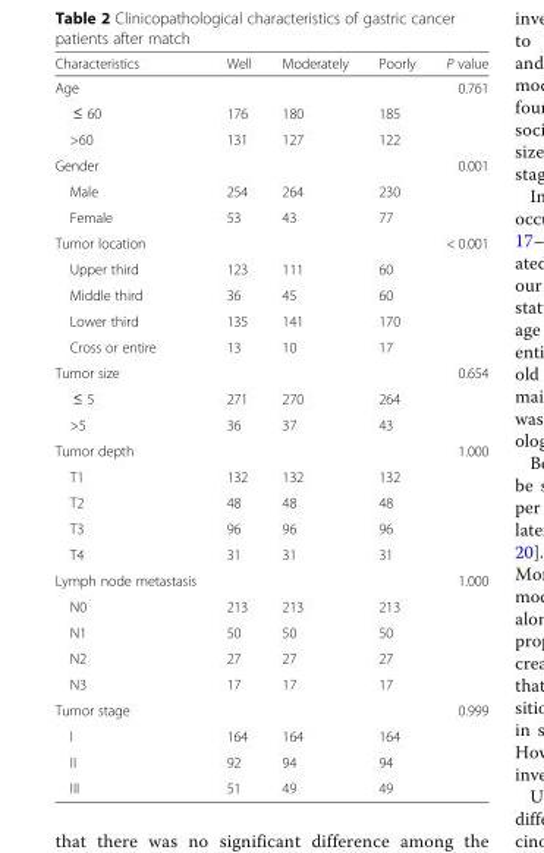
<table><thead><tr><td>Characteristics</td><td>Well</td><td>Moderately</td><td>Poorly</td><td>P value</td></tr></thead><tbody><tr><td>Age</td><td></td><td></td><td></td><td>0.761</td></tr><tr><td>≤ 60</td><td>176</td><td>180</td><td>185</td><td></td></tr><tr><td>&gt;60</td><td>131</td><td>127</td><td>122</td><td></td></tr><tr><td>Gender</td><td></td><td></td><td></td><td>0.001</td></tr><tr><td>Male</td><td>254</td><td>264</td><td>230</td><td></td></tr><tr><td>Female</td><td>53</td><td>43</td><td>77</td><td></td></tr><tr><td>Tumor location</td><td></td><td></td><td></td><td>&lt; 0.001</td></tr><tr><td>Upper third</td><td>123</td><td>111</td><td>60</td><td></td></tr><tr><td>Middle third</td><td>36</td><td>45</td><td>60</td><td></td></tr><tr><td>Lower third</td><td>135</td><td>141</td><td>170</td><td></td></tr><tr><td>Cross or entire</td><td>13</td><td>10</td><td>17</td><td></td></tr><tr><td>Tumor size</td><td></td><td></td><td></td><td>0.654</td></tr><tr><td>≤ 5</td><td>271</td><td>270</td><td>264</td><td></td></tr><tr><td>&gt;5</td><td>36</td><td>37</td><td>43</td><td></td></tr><tr><td>Tumor depth</td><td></td><td></td><td></td><td>1.000</td></tr><tr><td>T1</td><td>132</td><td>132</td><td>132</td><td></td></tr><tr><td>T2</td><td>48</td><td>48</td><td>48</td><td></td></tr><tr><td>T3</td><td>96</td><td>96</td><td>96</td><td></td></tr><tr><td>T4</td><td>31</td><td>31</td><td>31</td><td></td></tr><tr><td>Lymph node metastasis</td><td></td><td></td><td></td><td>1.000</td></tr><tr><td>N0</td><td>213</td><td>213</td><td>213</td><td></td></tr><tr><td>N1</td><td>50</td><td>50</td><td>50</td><td></td></tr><tr><td>N2</td><td>27</td><td>27</td><td>27</td><td></td></tr><tr><td>N3</td><td>17</td><td>17</td><td>17</td><td></td></tr><tr><td>Tumor stage</td><td></td><td></td><td></td><td>0.999</td></tr><tr><td>I</td><td>164</td><td>164</td><td>164</td><td></td></tr><tr><td>II</td><td>92</td><td>94</td><td>94</td><td></td></tr><tr><td>III</td><td>51</td><td>49</td><td>49</td><td></td></tr></tbody></table>